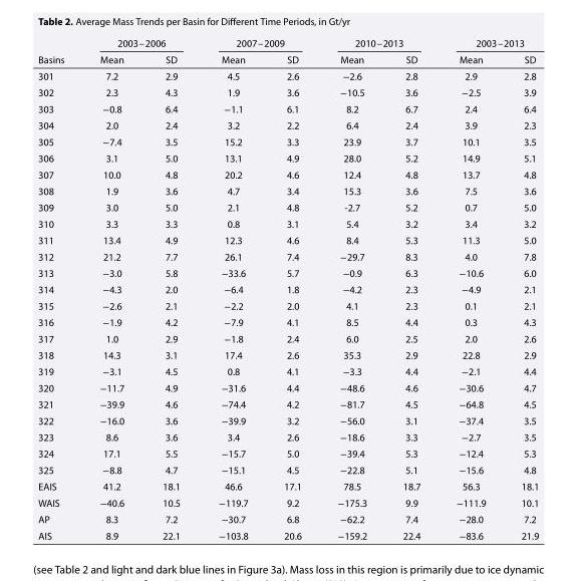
<table><thead><tr><td rowspan="2">Basins</td><td colspan="2">2003–2006</td><td colspan="2">2007–2009</td><td colspan="2">2010–2013</td><td colspan="2">2003–2013</td></tr><tr><td>Mean</td><td>SD</td><td>Mean</td><td>SD</td><td>Mean</td><td>SD</td><td>Mean</td><td>SD</td></tr></thead><tbody><tr><td>301</td><td>7.2</td><td>2.9</td><td>4.5</td><td>2.6</td><td>−2.6</td><td>2.8</td><td>2.9</td><td>2.8</td></tr><tr><td>302</td><td>2.3</td><td>4.3</td><td>1.9</td><td>3.6</td><td>−10.5</td><td>3.6</td><td>−2.5</td><td>3.9</td></tr><tr><td>303</td><td>−0.8</td><td>6.4</td><td>−1.1</td><td>6.1</td><td>8.2</td><td>6.7</td><td>2.4</td><td>6.4</td></tr><tr><td>304</td><td>2.0</td><td>2.4</td><td>3.2</td><td>2.2</td><td>6.4</td><td>2.4</td><td>3.9</td><td>2.3</td></tr><tr><td>305</td><td>−7.4</td><td>3.5</td><td>15.2</td><td>3.3</td><td>23.9</td><td>3.7</td><td>10.1</td><td>3.5</td></tr><tr><td>306</td><td>3.1</td><td>5.0</td><td>13.1</td><td>4.9</td><td>28.0</td><td>5.2</td><td>14.9</td><td>5.1</td></tr><tr><td>307</td><td>10.0</td><td>4.8</td><td>20.2</td><td>4.6</td><td>12.4</td><td>4.8</td><td>13.7</td><td>4.8</td></tr><tr><td>308</td><td>1.9</td><td>3.6</td><td>4.7</td><td>3.4</td><td>15.3</td><td>3.6</td><td>7.5</td><td>3.6</td></tr><tr><td>309</td><td>3.0</td><td>5.0</td><td>2.1</td><td>4.8</td><td>-2.7</td><td>5.2</td><td>0.7</td><td>5.0</td></tr><tr><td>310</td><td>3.3</td><td>3.3</td><td>0.8</td><td>3.1</td><td>5.4</td><td>3.2</td><td>3.4</td><td>3.2</td></tr><tr><td>311</td><td>13.4</td><td>4.9</td><td>12.3</td><td>4.6</td><td>8.4</td><td>5.3</td><td>11.3</td><td>5.0</td></tr><tr><td>312</td><td>21.2</td><td>7.7</td><td>26.1</td><td>7.4</td><td>−29.7</td><td>8.3</td><td>4.0</td><td>7.8</td></tr><tr><td>313</td><td>−3.0</td><td>5.8</td><td>−33.6</td><td>5.7</td><td>−0.9</td><td>6.3</td><td>−10.6</td><td>6.0</td></tr><tr><td>314</td><td>−4.3</td><td>2.0</td><td>−6.4</td><td>1.8</td><td>−4.2</td><td>2.3</td><td>−4.9</td><td>2.1</td></tr><tr><td>315</td><td>−2.6</td><td>2.1</td><td>−2.2</td><td>2.0</td><td>4.1</td><td>2.3</td><td>0.1</td><td>2.1</td></tr><tr><td>316</td><td>−1.9</td><td>4.2</td><td>−7.9</td><td>4.1</td><td>8.5</td><td>4.4</td><td>0.3</td><td>4.3</td></tr><tr><td>317</td><td>1.0</td><td>2.9</td><td>−1.8</td><td>2.4</td><td>6.0</td><td>2.5</td><td>2.0</td><td>2.6</td></tr><tr><td>318</td><td>14.3</td><td>3.1</td><td>17.4</td><td>2.6</td><td>35.3</td><td>2.9</td><td>22.8</td><td>2.9</td></tr><tr><td>319</td><td>−3.1</td><td>4.5</td><td>0.8</td><td>4.1</td><td>−3.3</td><td>4.4</td><td>−2.1</td><td>4.4</td></tr><tr><td>320</td><td>−11.7</td><td>4.9</td><td>−31.6</td><td>4.4</td><td>−48.6</td><td>4.6</td><td>−30.6</td><td>4.7</td></tr><tr><td>321</td><td>−39.9</td><td>4.6</td><td>−74.4</td><td>4.2</td><td>−81.7</td><td>4.5</td><td>−64.8</td><td>4.5</td></tr><tr><td>322</td><td>−16.0</td><td>3.6</td><td>−39.9</td><td>3.2</td><td>−56.0</td><td>3.1</td><td>−37.4</td><td>3.5</td></tr><tr><td>323</td><td>8.6</td><td>3.6</td><td>3.4</td><td>2.6</td><td>−18.6</td><td>3.3</td><td>−2.7</td><td>3.5</td></tr><tr><td>324</td><td>17.1</td><td>5.5</td><td>−15.7</td><td>5.0</td><td>−39.4</td><td>5.3</td><td>−12.4</td><td>5.3</td></tr><tr><td>325</td><td>−8.8</td><td>4.7</td><td>−15.1</td><td>4.5</td><td>−22.8</td><td>5.1</td><td>−15.6</td><td>4.8</td></tr><tr><td>EAIS</td><td>41.2</td><td>18.1</td><td>46.6</td><td>17.1</td><td>78.5</td><td>18.7</td><td>56.3</td><td>18.1</td></tr><tr><td>WAIS</td><td>−40.6</td><td>10.5</td><td>−119.7</td><td>9.2</td><td>−175.3</td><td>9.9</td><td>−111.9</td><td>10.1</td></tr><tr><td>AP</td><td>8.3</td><td>7.2</td><td>−30.7</td><td>6.8</td><td>−62.2</td><td>7.4</td><td>−28.0</td><td>7.2</td></tr><tr><td>AIS</td><td>8.9</td><td>22.1</td><td>−103.8</td><td>20.6</td><td>−159.2</td><td>22.4</td><td>−83.6</td><td>21.9</td></tr></tbody></table>